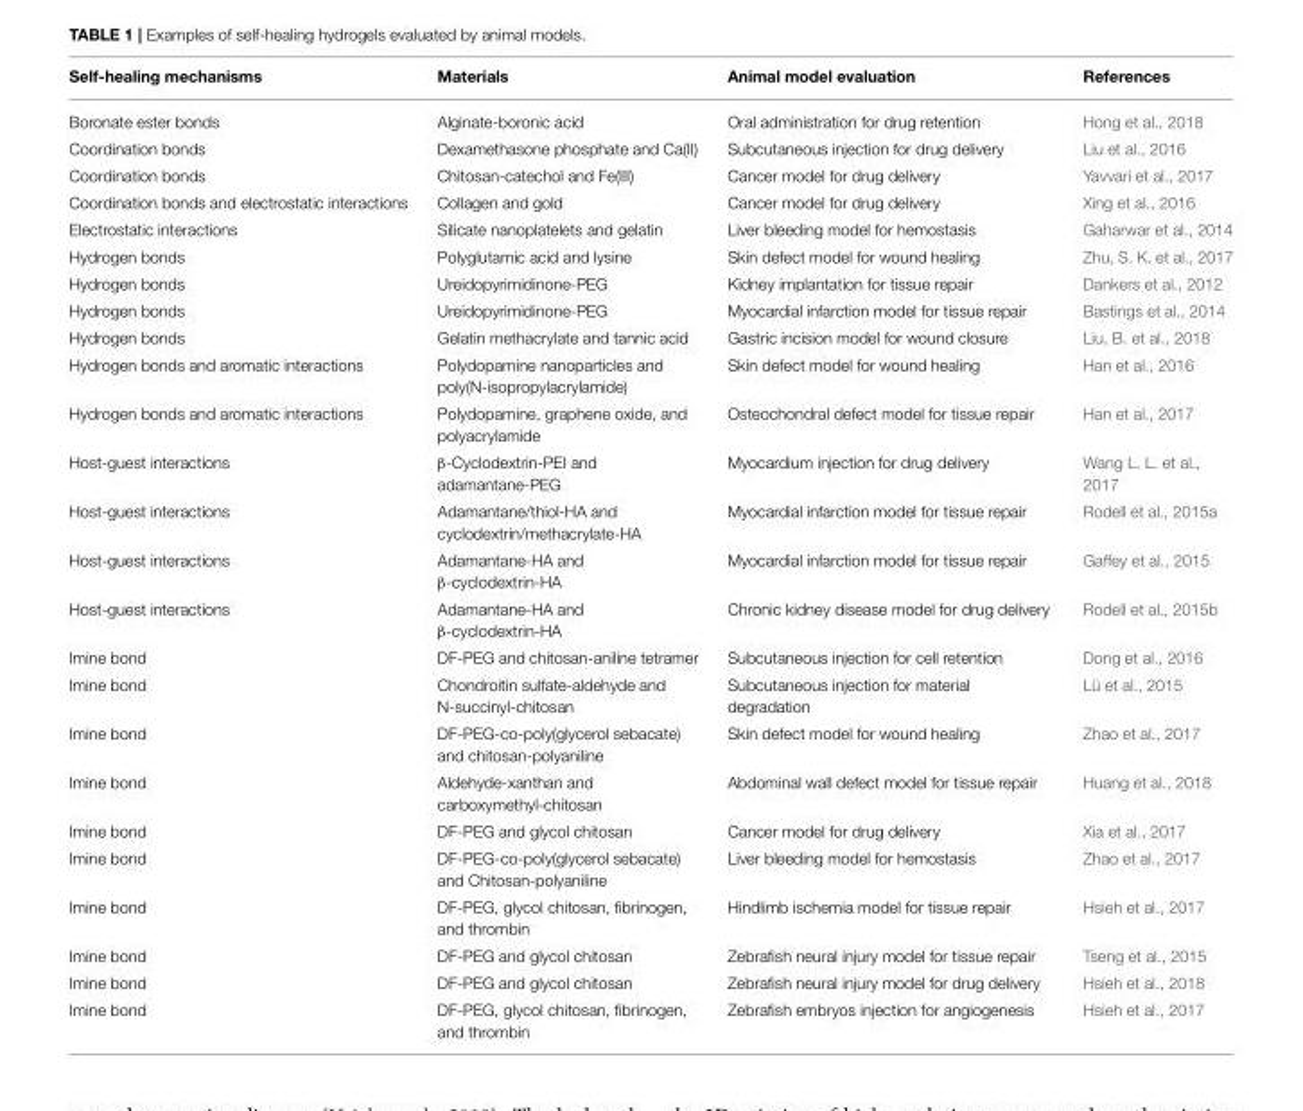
<table><thead><tr><td>Self-healing mechanisms</td><td>Materials</td><td>Animal model evaluation</td><td>References</td></tr></thead><tbody><tr><td>Boronate ester bonds</td><td>Alginate-boronic acid</td><td>Oral administration for drug retention</td><td>Hong et al., 2018</td></tr><tr><td>Coordination bonds</td><td>Dexamethasone phosphate and Ca(II)</td><td>Subcutaneous injection for drug delivery</td><td>Liu et al., 2016</td></tr><tr><td>Coordination bonds</td><td>Chitosan-catechol and Fe(III)</td><td>Cancer model for drug delivery</td><td>Yavvari et al., 2017</td></tr><tr><td>Coordination bonds and electrostatic interactions</td><td>Collagen and gold</td><td>Cancer model for drug delivery</td><td>Xing et al., 2016</td></tr><tr><td>Electrostatic interactions</td><td>Silicate nanoplatelets and gelatin</td><td>Liver bleeding model for hemostasis</td><td>Gaharwar et al., 2014</td></tr><tr><td>Hydrogen bonds</td><td>Polyglutamic acid and lysine</td><td>Skin defect model for wound healing</td><td>Zhu, S. K. et al., 2017</td></tr><tr><td>Hydrogen bonds</td><td>Ureidopyrimidinone-PEG</td><td>Kidney implantation for tissue repair</td><td>Dankers et al., 2012</td></tr><tr><td>Hydrogen bonds</td><td>Ureidopyrimidinone-PEG</td><td>Myocardial infarction model for tissue repair</td><td>Bastings et al., 2014</td></tr><tr><td>Hydrogen bonds</td><td>Gelatin methacrylate and tannic acid</td><td>Gastric incision model for wound closure</td><td>Liu, B. et al., 2018</td></tr><tr><td>Hydrogen bonds and aromatic interactions</td><td>Polydopamine nanoparticles and poly(N-isopropylacrylamide)</td><td>Skin defect model for wound healing</td><td>Han et al., 2016</td></tr><tr><td>Hydrogen bonds and aromatic interactions</td><td>Polydopamine, graphene oxide, and polyacrylamide</td><td>Osteochondral defect model for tissue repair</td><td>Han et al., 2017</td></tr><tr><td>Host-guest interactions</td><td>β-Cyclodextrin-PEI and adamantane-PEG</td><td>Myocardium injection for drug delivery</td><td>Wang L. L. et al., 2017</td></tr><tr><td>Host-guest interactions</td><td>Adamantane/thiol-HA and cyclodextrin/methacrylate-HA</td><td>Myocardial infarction model for tissue repair</td><td>Rodell et al., 2015a</td></tr><tr><td>Host-guest interactions</td><td>Adamantane-HA and β-cyclodextrin-HA</td><td>Myocardial infarction model for tissue repair</td><td>Gaffey et al., 2015</td></tr><tr><td>Host-guest interactions</td><td>Adamantane-HA and β-cyclodextrin-HA</td><td>Chronic kidney disease model for drug delivery</td><td>Rodell et al., 2015b</td></tr><tr><td>Imine bond</td><td>DF-PEG and chitosan-aniline tetramer</td><td>Subcutaneous injection for cell retention</td><td>Dong et al., 2016</td></tr><tr><td>Imine bond</td><td>Chondroitin sulfate-aldehyde and N-succinyl-chitosan</td><td>Subcutaneous injection for material degradation</td><td>Lü et al., 2015</td></tr><tr><td>Imine bond</td><td>DF-PEG-co-poly(glycerol sebacate) and chitosan-polyaniline</td><td>Skin defect model for wound healing</td><td>Zhao et al., 2017</td></tr><tr><td>Imine bond</td><td>Aldehyde-xanthan and carboxymethyl-chitosan</td><td>Abdominal wall defect model for tissue repair</td><td>Huang et al., 2018</td></tr><tr><td>Imine bond</td><td>DF-PEG and glycol chitosan</td><td>Cancer model for drug delivery</td><td>Xia et al., 2017</td></tr><tr><td>Imine bond</td><td>DF-PEG-co-poly(glycerol sebacate) and Chitosan-polyaniline</td><td>Liver bleeding model for hemostasis</td><td>Zhao et al., 2017</td></tr><tr><td>Imine bond</td><td>DF-PEG, glycol chitosan, fibrinogen, and thrombin</td><td>Hindlimb ischemia model for tissue repair</td><td>Hsieh et al., 2017</td></tr><tr><td>Imine bond</td><td>DF-PEG and glycol chitosan</td><td>Zebrafish neural injury model for tissue repair</td><td>Tseng et al., 2015</td></tr><tr><td>Imine bond</td><td>DF-PEG and glycol chitosan</td><td>Zebrafish neural injury model for drug delivery</td><td>Hsieh et al., 2018</td></tr><tr><td>Imine bond</td><td>DF-PEG, glycol chitosan, fibrinogen, and thrombin</td><td>Zebrafish embryos injection for angiogenesis</td><td>Hsieh et al., 2017</td></tr></tbody></table>